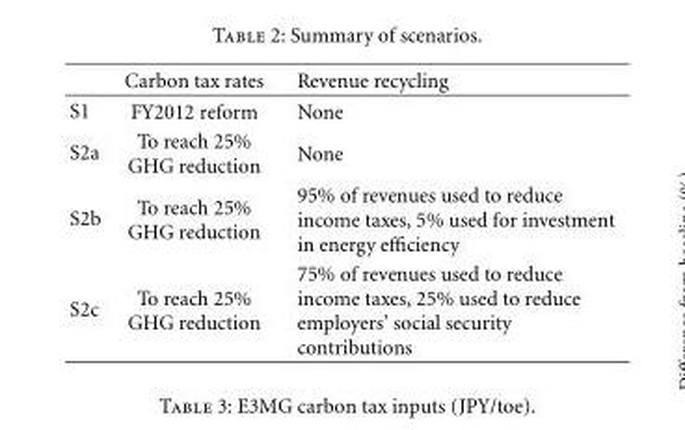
<table><thead><tr><td></td><td>Carbon tax rates</td><td>Revenue recycling</td></tr></thead><tbody><tr><td>S1</td><td>FY2012 reform</td><td>None</td></tr><tr><td>S2a</td><td>To reach 25% GHG reduction</td><td>None</td></tr><tr><td>S2b</td><td>To reach 25% GHG reduction</td><td>95% of revenues used to reduce income taxes, 5% used for investment in energy efficiency</td></tr><tr><td>S2c</td><td>To reach 25% GHG reduction</td><td>75% of revenues used to reduce income taxes, 25% used to reduce employers’ social security contributions</td></tr></tbody></table>